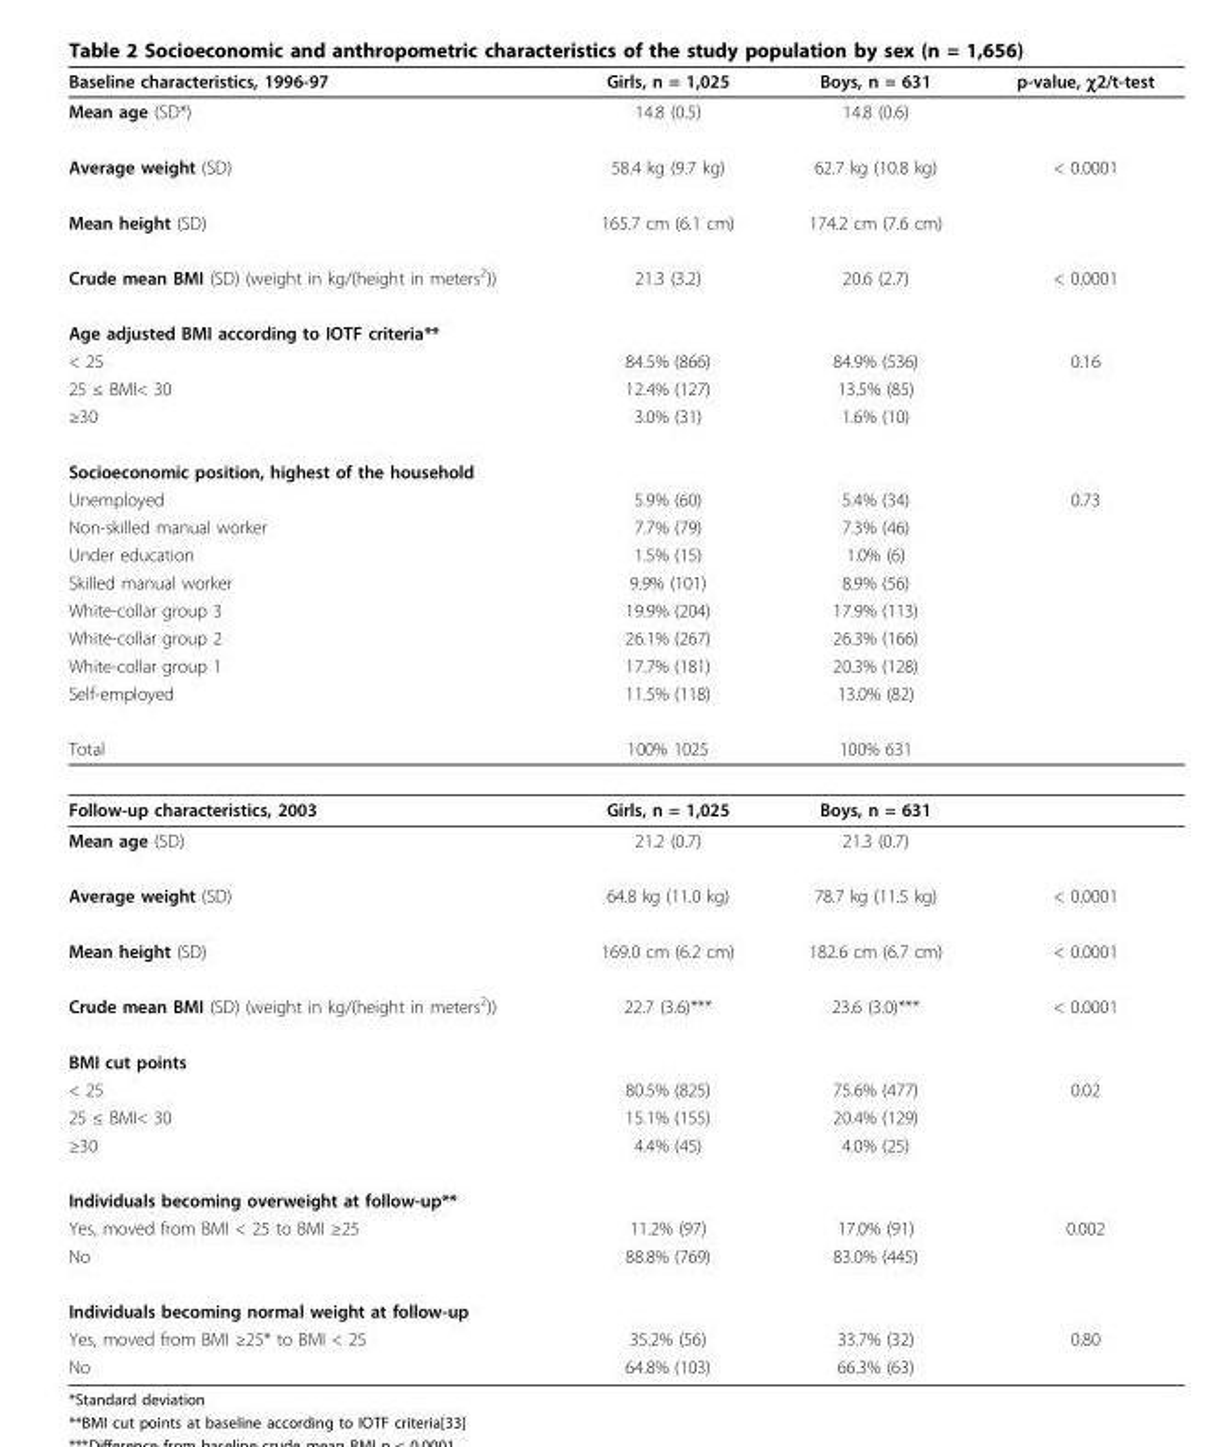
<table><thead><tr><td>Baseline characteristics, 1996-97</td><td>Girls, n = 1,025</td><td>Boys, n = 631</td><td>p-value, χ2/t-test</td></tr></thead><tbody><tr><td>Mean age (SD*)</td><td>14.8 (0.5)</td><td>14.8 (0.6)</td><td></td></tr><tr><td>Average weight (SD)</td><td>58.4 kg (9.7 kg)</td><td>62.7 kg (10.8 kg)</td><td>&lt; 0.0001</td></tr><tr><td>Mean height (SD)</td><td>165.7 cm (6.1 cm)</td><td>174.2 cm (7.6 cm)</td><td></td></tr><tr><td>Crude mean BMI (SD) (weight in kg/(height in meters2))</td><td>21.3 (3.2)</td><td>20.6 (2.7)</td><td>&lt; 0.0001</td></tr><tr><td colspan="4">Age adjusted BMI according to IOTF criteria**</td></tr><tr><td>&lt; 25</td><td>84.5% (866)</td><td>84.9% (536)</td><td>0.16</td></tr><tr><td>25 ≤ BMI&lt; 30</td><td>12.4% (127)</td><td>13.5% (85)</td><td></td></tr><tr><td>≥30</td><td>3.0% (31)</td><td>1.6% (10)</td><td></td></tr><tr><td colspan="4">Socioeconomic position, highest of the household</td></tr><tr><td>Unemployed</td><td>5.9% (60)</td><td>5.4% (34)</td><td>0.73</td></tr><tr><td>Non-skilled manual worker</td><td>7.7% (79)</td><td>7.3% (46)</td><td></td></tr><tr><td>Under education</td><td>1.5% (15)</td><td>1.0% (6)</td><td></td></tr><tr><td>Skilled manual worker</td><td>9.9% (101)</td><td>8.9% (56)</td><td></td></tr><tr><td>White-collar group 3</td><td>19.9% (204)</td><td>17.9% (113)</td><td></td></tr><tr><td>White-collar group 2</td><td>26.1% (267)</td><td>26.3% (166)</td><td></td></tr><tr><td>White-collar group 1</td><td>17.7% (181)</td><td>20.3% (128)</td><td></td></tr><tr><td>Self-employed</td><td>11.5% (118)</td><td>13.0% (82)</td><td></td></tr><tr><td>Total</td><td>100% 1025</td><td>100% 631</td><td></td></tr><tr><td>Follow-up characteristics, 2003</td><td>Girls, n = 1,025</td><td>Boys, n = 631</td><td></td></tr><tr><td>Mean age (SD)</td><td>21.2 (0.7)</td><td>21.3 (0.7)</td><td></td></tr><tr><td>Average weight (SD)</td><td>64.8 kg (11.0 kg)</td><td>78.7 kg (11.5 kg)</td><td>&lt; 0.0001</td></tr><tr><td>Mean height (SD)</td><td>169.0 cm (6.2 cm)</td><td>182.6 cm (6.7 cm)</td><td>&lt; 0.0001</td></tr><tr><td>Crude mean BMI (SD) (weight in kg/(height in meters2))</td><td>22.7 (3.6)***</td><td>23.6 (3.0)***</td><td>&lt; 0.0001</td></tr><tr><td colspan="4">BMI cut points</td></tr><tr><td>&lt; 25</td><td>80.5% (825)</td><td>75.6% (477)</td><td>0.02</td></tr><tr><td>25 ≤ BMI&lt; 30</td><td>15.1% (155)</td><td>20.4% (129)</td><td></td></tr><tr><td>≥30</td><td>4.4% (45)</td><td>4.0% (25)</td><td></td></tr><tr><td colspan="4">Individuals becoming overweight at follow-up**</td></tr><tr><td>Yes, moved from BMI &lt; 25 to BMI ≥25</td><td>11.2% (97)</td><td>17.0% (91)</td><td>0.002</td></tr><tr><td>No</td><td>88.8% (769)</td><td>83.0% (445)</td><td></td></tr><tr><td colspan="4">Individuals becoming normal weight at follow-up</td></tr><tr><td>Yes, moved from BMI ≥25* to BMI &lt; 25</td><td>35.2% (56)</td><td>33.7% (32)</td><td>0.80</td></tr><tr><td>No</td><td>64.8% (103)</td><td>66.3% (63)</td><td></td></tr></tbody></table>